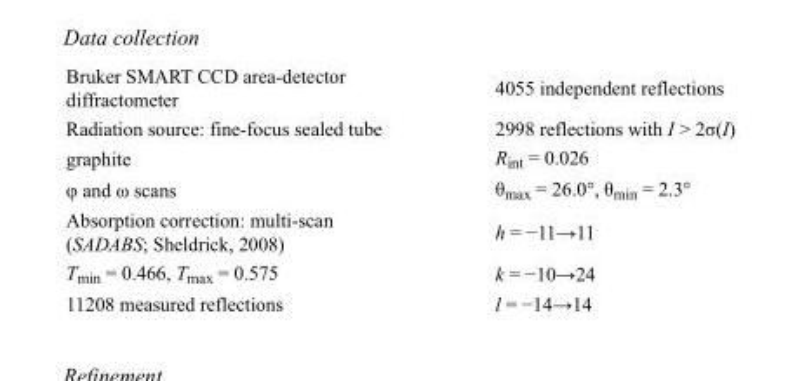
<table><tbody><tr><td>Bruker SMART CCD area-detector diffractometer</td><td>4055 independent reflections</td></tr><tr><td>Radiation source: fine-focus sealed tube</td><td>2998 reflections with I &gt; 2σ(I)</td></tr><tr><td>graphite</td><td>R<sub>int</sub> = 0.026</td></tr><tr><td>φ and ω scans</td><td>θ<sub>max</sub> = 26.0°, θ<sub>min</sub> = 2.3°</td></tr><tr><td>Absorption correction: multi-scan (SADABS; Sheldrick, 2008)</td><td>h = −11→11</td></tr><tr><td>T<sub>min</sub> = 0.466, T<sub>max</sub> = 0.575</td><td>k = −10→24</td></tr><tr><td>11208 measured reflections</td><td>l = −14→14</td></tr></tbody></table>